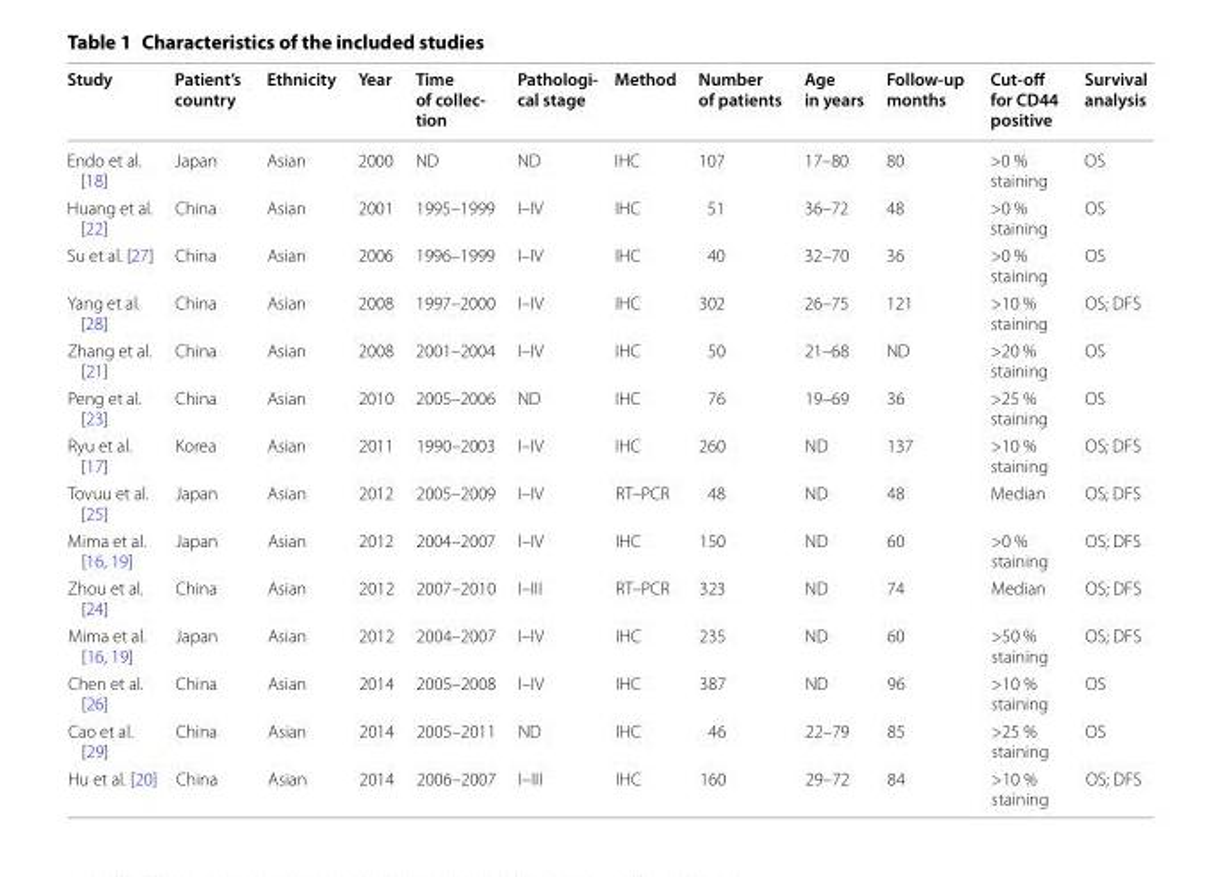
<table><thead><tr><td>Study</td><td>Patient’s country</td><td>Ethnicity</td><td>Year</td><td>Time of collec‑ tion</td><td>Pathologi‑ cal stage</td><td>Method</td><td>Number of patients</td><td>Age in years</td><td>Follow‑up months</td><td>Cut‑off for CD44 positive</td><td>Survival analysis</td></tr></thead><tbody><tr><td>Endo et al. [18]</td><td>Japan</td><td>Asian</td><td>2000</td><td>ND</td><td>ND</td><td>IHC</td><td>107</td><td>17–80</td><td>80</td><td>&gt;0 % staining</td><td>OS</td></tr><tr><td>Huang et al. [22]</td><td>China</td><td>Asian</td><td>2001</td><td>1995–1999</td><td>I–IV</td><td>IHC</td><td>51</td><td>36–72</td><td>48</td><td>&gt;0 % staining</td><td>OS</td></tr><tr><td>Su et al. [27]</td><td>China</td><td>Asian</td><td>2006</td><td>1996–1999</td><td>I–IV</td><td>IHC</td><td>40</td><td>32–70</td><td>36</td><td>&gt;0 % staining</td><td>OS</td></tr><tr><td>Yang et al. [28]</td><td>China</td><td>Asian</td><td>2008</td><td>1997–2000</td><td>I–IV</td><td>IHC</td><td>302</td><td>26–75</td><td>121</td><td>&gt;10 % staining</td><td>OS; DFS</td></tr><tr><td>Zhang et al. [21]</td><td>China</td><td>Asian</td><td>2008</td><td>2001–2004</td><td>I–IV</td><td>IHC</td><td>50</td><td>21–68</td><td>ND</td><td>&gt;20 % staining</td><td>OS</td></tr><tr><td>Peng et al. [23]</td><td>China</td><td>Asian</td><td>2010</td><td>2005–2006</td><td>ND</td><td>IHC</td><td>76</td><td>19–69</td><td>36</td><td>&gt;25 % staining</td><td>OS</td></tr><tr><td>Ryu et al. [17]</td><td>Korea</td><td>Asian</td><td>2011</td><td>1990–2003</td><td>I–IV</td><td>IHC</td><td>260</td><td>ND</td><td>137</td><td>&gt;10 % staining</td><td>OS; DFS</td></tr><tr><td>Tovuu et al. [25]</td><td>Japan</td><td>Asian</td><td>2012</td><td>2005–2009</td><td>I–IV</td><td>RT–PCR</td><td>48</td><td>ND</td><td>48</td><td>Median</td><td>OS; DFS</td></tr><tr><td>Mima et al. [16, 19]</td><td>Japan</td><td>Asian</td><td>2012</td><td>2004–2007</td><td>I–IV</td><td>IHC</td><td>150</td><td>ND</td><td>60</td><td>&gt;0 % staining</td><td>OS; DFS</td></tr><tr><td>Zhou et al. [24]</td><td>China</td><td>Asian</td><td>2012</td><td>2007–2010</td><td>I–III</td><td>RT–PCR</td><td>323</td><td>ND</td><td>74</td><td>Median</td><td>OS; DFS</td></tr><tr><td>Mima et al. [16, 19]</td><td>Japan</td><td>Asian</td><td>2012</td><td>2004–2007</td><td>I–IV</td><td>IHC</td><td>235</td><td>ND</td><td>60</td><td>&gt;50 % staining</td><td>OS; DFS</td></tr><tr><td>Chen et al. [26]</td><td>China</td><td>Asian</td><td>2014</td><td>2005–2008</td><td>I–IV</td><td>IHC</td><td>387</td><td>ND</td><td>96</td><td>&gt;10 % staining</td><td>OS</td></tr><tr><td>Cao et al. [29]</td><td>China</td><td>Asian</td><td>2014</td><td>2005–2011</td><td>ND</td><td>IHC</td><td>46</td><td>22–79</td><td>85</td><td>&gt;25 % staining</td><td>OS</td></tr><tr><td>Hu et al. [20]</td><td>China</td><td>Asian</td><td>2014</td><td>2006–2007</td><td>I–III</td><td>IHC</td><td>160</td><td>29–72</td><td>84</td><td>&gt;10 % staining</td><td>OS; DFS</td></tr></tbody></table>